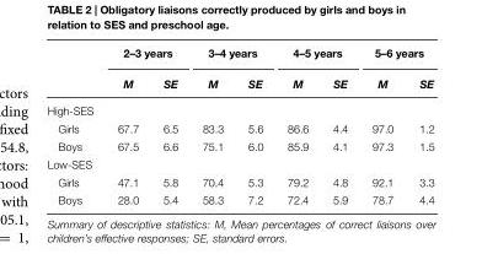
<table><thead><tr><td rowspan="2"></td><td colspan="2">2–3 years</td><td colspan="2">3–4 years</td><td colspan="2">4–5 years</td><td colspan="2">5–6 years</td></tr><tr><td>M</td><td>SE</td><td>M</td><td>SE</td><td>M</td><td>SE</td><td>M</td><td>SE</td></tr></thead><tbody><tr><td colspan="9">High-SES</td></tr><tr><td>Girls</td><td>67.7</td><td>6.5</td><td>83.3</td><td>5.6</td><td>86.6</td><td>4.4</td><td>97.0</td><td>1.2</td></tr><tr><td>Boys</td><td>67.5</td><td>6.6</td><td>75.1</td><td>6.0</td><td>85.9</td><td>4.1</td><td>97.3</td><td>1.5</td></tr><tr><td colspan="9">Low-SES</td></tr><tr><td>Girls</td><td>47.1</td><td>5.8</td><td>70.4</td><td>5.3</td><td>79.2</td><td>4.8</td><td>92.1</td><td>3.3</td></tr><tr><td>Boys</td><td>28.0</td><td>5.4</td><td>58.3</td><td>7.2</td><td>72.4</td><td>5.9</td><td>78.7</td><td>4.4</td></tr></tbody></table>